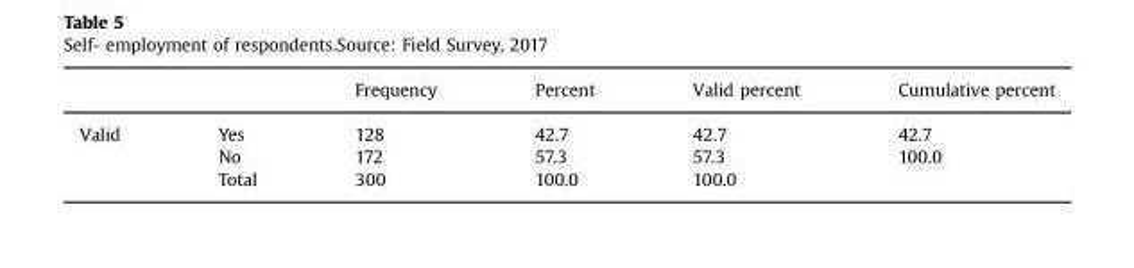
<table><thead><tr><td></td><td></td><td>Frequency</td><td>Percent</td><td>Valid percent</td><td>Cumulative percent</td></tr></thead><tbody><tr><td rowspan="3">Valid</td><td>Yes</td><td>128</td><td>42.7</td><td>42.7</td><td>42.7</td></tr><tr><td>No</td><td>172</td><td>57.3</td><td>57.3</td><td>100.0</td></tr><tr><td>Total</td><td>300</td><td>100.0</td><td>100.0</td><td></td></tr></tbody></table>